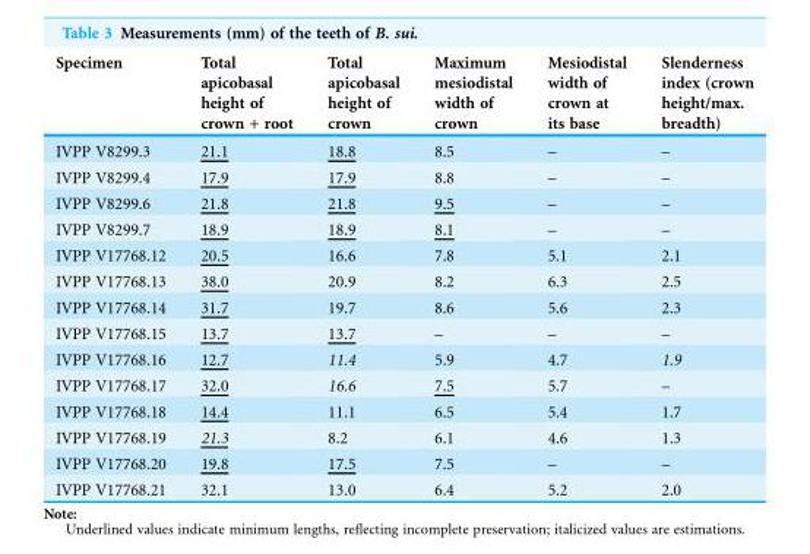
<table><thead><tr><td>Specimen</td><td>Total apicobasal height of crown + root</td><td>Total apicobasal height of crown</td><td>Maximum mesiodistal width of crown</td><td>Mesiodistal width of crown at its base</td><td>Slenderness index (crown height/max. breadth)</td></tr></thead><tbody><tr><td>IVPP V8299.3</td><td>21.1</td><td>18.8</td><td>8.5</td><td>–</td><td>–</td></tr><tr><td>IVPP V8299.4</td><td>17.9</td><td>17.9</td><td>8.8</td><td>–</td><td>–</td></tr><tr><td>IVPP V8299.6</td><td>21.8</td><td>21.8</td><td>9.5</td><td>–</td><td>–</td></tr><tr><td>IVPP V8299.7</td><td>18.9</td><td>18.9</td><td>8.1</td><td>–</td><td>–</td></tr><tr><td>IVPP V17768.12</td><td>20.5</td><td>16.6</td><td>7.8</td><td>5.1</td><td>2.1</td></tr><tr><td>IVPP V17768.13</td><td>38.0</td><td>20.9</td><td>8.2</td><td>6.3</td><td>2.5</td></tr><tr><td>IVPP V17768.14</td><td>31.7</td><td>19.7</td><td>8.6</td><td>5.6</td><td>2.3</td></tr><tr><td>IVPP V17768.15</td><td>13.7</td><td>13.7</td><td>–</td><td>–</td><td>–</td></tr><tr><td>IVPP V17768.16</td><td>12.7</td><td>11.4</td><td>5.9</td><td>4.7</td><td>1.9</td></tr><tr><td>IVPP V17768.17</td><td>32.0</td><td>16.6</td><td>7.5</td><td>5.7</td><td>–</td></tr><tr><td>IVPP V17768.18</td><td>14.4</td><td>11.1</td><td>6.5</td><td>5.4</td><td>1.7</td></tr><tr><td>IVPP V17768.19</td><td>21.3</td><td>8.2</td><td>6.1</td><td>4.6</td><td>1.3</td></tr><tr><td>IVPP V17768.20</td><td>19.8</td><td>17.5</td><td>7.5</td><td>–</td><td>–</td></tr><tr><td>IVPP V17768.21</td><td>32.1</td><td>13.0</td><td>6.4</td><td>5.2</td><td>2.0</td></tr></tbody></table>